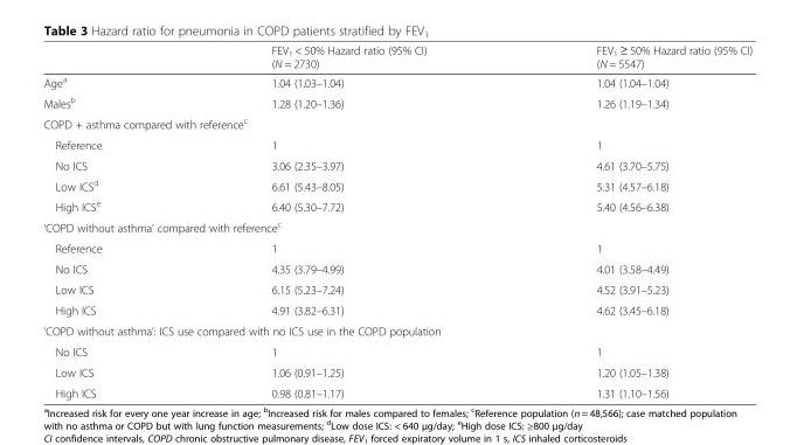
<table><thead><tr><td></td><td>FEV<sub>1</sub> &lt; 50% Hazard ratio (95% CI) (N = 2730)</td><td>FEV<sub>1</sub> ≥ 50% Hazard ratio (95% CI) (N = 5547)</td></tr></thead><tbody><tr><td>Age<sup>a</sup></td><td>1.04 (1.03–1.04)</td><td>1.04 (1.04–1.04)</td></tr><tr><td>Males<sup>b</sup></td><td>1.28 (1.20–1.36)</td><td>1.26 (1.19–1.34)</td></tr><tr><td colspan="3">COPD + asthma compared with reference<sup>c</sup></td></tr><tr><td>Reference</td><td>1</td><td>1</td></tr><tr><td>No ICS</td><td>3.06 (2.35–3.97)</td><td>4.61 (3.70–5.75)</td></tr><tr><td>Low ICS<sup>d</sup></td><td>6.61 (5.43–8.05)</td><td>5.31 (4.57–6.18)</td></tr><tr><td>High ICS<sup>e</sup></td><td>6.40 (5.30–7.72)</td><td>5.40 (4.56–6.38)</td></tr><tr><td colspan="3">‘COPD without asthma’ compared with reference<sup>c</sup></td></tr><tr><td>Reference</td><td>1</td><td>1</td></tr><tr><td>No ICS</td><td>4.35 (3.79–4.99)</td><td>4.01 (3.58–4.49)</td></tr><tr><td>Low ICS</td><td>6.15 (5.23–7.24)</td><td>4.52 (3.91–5.23)</td></tr><tr><td>High ICS</td><td>4.91 (3.82–6.31)</td><td>4.62 (3.45–6.18)</td></tr><tr><td colspan="3">‘COPD without asthma’: ICS use compared with no ICS use in the COPD population</td></tr><tr><td>No ICS</td><td>1</td><td>1</td></tr><tr><td>Low ICS</td><td>1.06 (0.91–1.25)</td><td>1.20 (1.05–1.38)</td></tr><tr><td>High ICS</td><td>0.98 (0.81–1.17)</td><td>1.31 (1.10–1.56)</td></tr></tbody></table>